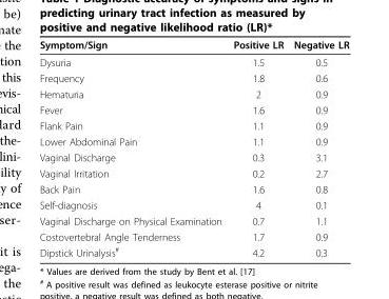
<table><thead><tr><td>Symptom/Sign</td><td>Positive LR</td><td>Negative LR</td></tr></thead><tbody><tr><td>Dysuria</td><td>1.5</td><td>0.5</td></tr><tr><td>Frequency</td><td>1.8</td><td>0.6</td></tr><tr><td>Hematuria</td><td>2</td><td>0.9</td></tr><tr><td>Fever</td><td>1.6</td><td>0.9</td></tr><tr><td>Flank Pain</td><td>1.1</td><td>0.9</td></tr><tr><td>Lower Abdominal Pain</td><td>1.1</td><td>0.9</td></tr><tr><td>Vaginal Discharge</td><td>0.3</td><td>3.1</td></tr><tr><td>Vaginal Irritation</td><td>0.2</td><td>2.7</td></tr><tr><td>Back Pain</td><td>1.6</td><td>0.8</td></tr><tr><td>Self-diagnosis</td><td>4</td><td>0.1</td></tr><tr><td>Vaginal Discharge on Physical Examination</td><td>0.7</td><td>1.1</td></tr><tr><td>Costovertebral Angle Tenderness</td><td>1.7</td><td>0.9</td></tr><tr><td>Dipstick Urinalysis<sup>#</sup></td><td>4.2</td><td>0.3</td></tr></tbody></table>